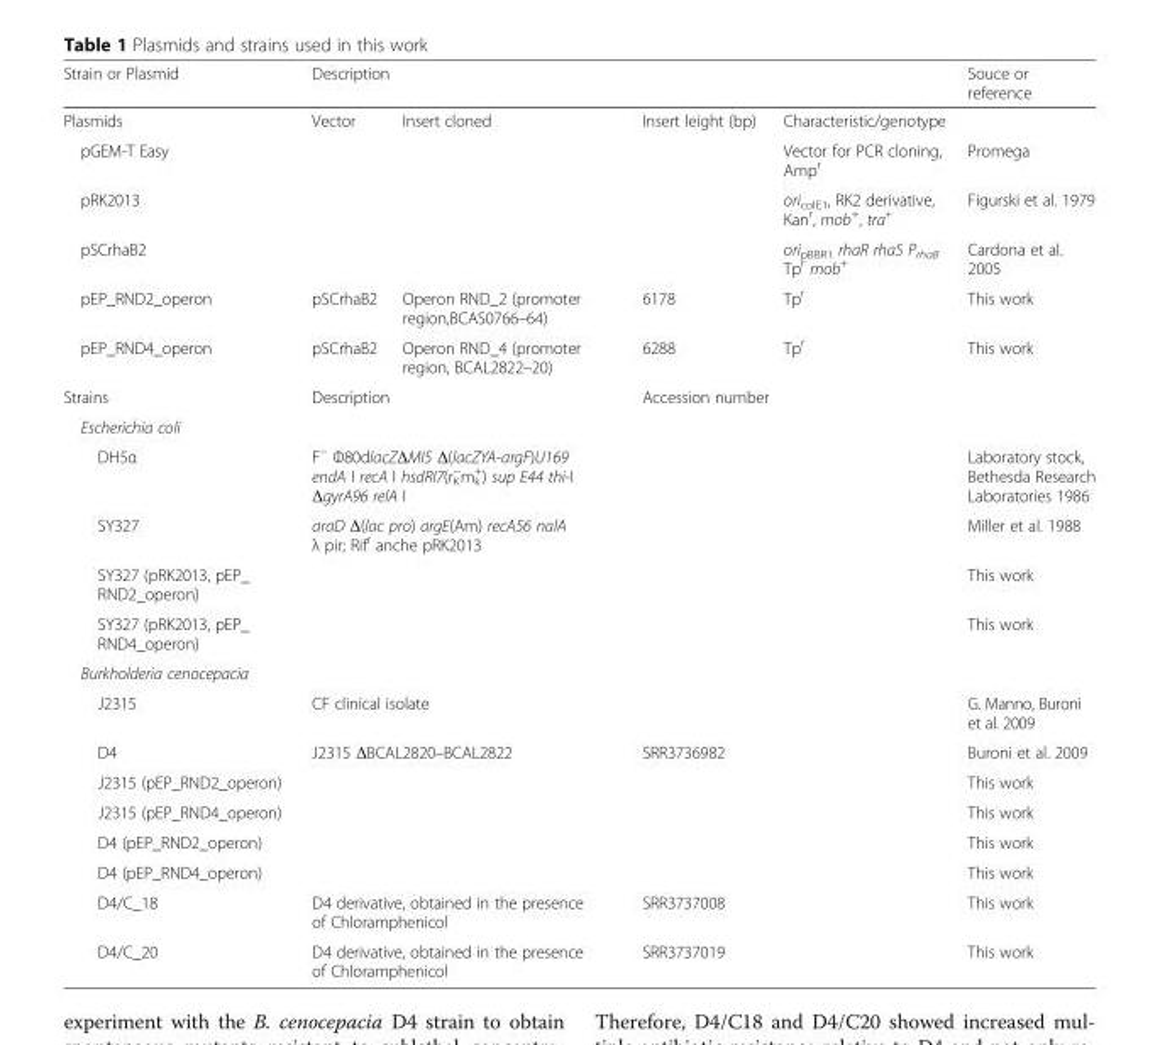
<table><thead><tr><td rowspan="2">Strain or Plasmid Plasmids</td><td colspan="4">Description</td><td rowspan="2">Souce or reference</td></tr><tr><td>Vector</td><td>Insert cloned</td><td>Insert leight (bp)</td><td>Characteristic/genotype</td></tr></thead><tbody><tr><td>pGEM-T Easy</td><td></td><td></td><td></td><td>Vector for PCR cloning, Amp<sup>r</sup></td><td>Promega</td></tr><tr><td>pRK2013</td><td></td><td></td><td></td><td>ori<sub>colE1</sub>, RK2 derivative, Kan<sup>r</sup>, mob<sup>+</sup>, tra<sup>+</sup></td><td>Figurski et al. 1979</td></tr><tr><td>pSCrhaB2</td><td></td><td></td><td></td><td>ori<sub>pBBR1</sub> rhaR rhaS P<sub>rhaB</sub> Tp<sup>r</sup> mob<sup>+</sup></td><td>Cardona et al. 2005</td></tr><tr><td>pEP_RND2_operon</td><td>pSCrhaB2</td><td>Operon RND_2 (promoter region,BCAS0766–64)</td><td>6178</td><td>Tp<sup>r</sup></td><td>This work</td></tr><tr><td>pEP_RND4_operon</td><td>pSCrhaB2</td><td>Operon RND_4 (promoter region, BCAL2822–20)</td><td>6288</td><td>Tp<sup>r</sup></td><td>This work</td></tr><tr><td>Strains</td><td>Description</td><td></td><td>Accession number</td><td></td><td></td></tr><tr><td colspan="6">Escherichia coli</td></tr><tr><td>DH5α</td><td colspan="2">F<sup>−</sup> Φ80dlacZΔMI5 Δ(lacZYA-argF)U169 endA I recA I hsdRI7(r<sub>K</sub> <sup>−</sup>m<sub>k</sub> <sup>+</sup>) sup E44 thi-I ΔgyrA96 relA I</td><td></td><td></td><td>Laboratory stock, Bethesda Research Laboratories 1986</td></tr><tr><td>SY327</td><td colspan="2">araD Δ(lac pro) argE(Am) recA56 nalA λ pir; Rif<sup>r</sup> anche pRK2013</td><td></td><td></td><td>Miller et al. 1988</td></tr><tr><td>SY327 (pRK2013, pEP_ RND2_operon)</td><td></td><td></td><td></td><td></td><td>This work</td></tr><tr><td>SY327 (pRK2013, pEP_ RND4_operon)</td><td></td><td></td><td></td><td></td><td>This work</td></tr><tr><td colspan="6">Burkholderia cenocepacia</td></tr><tr><td>J2315</td><td colspan="2">CF clinical isolate</td><td></td><td></td><td>G. Manno, Buroni et al. 2009</td></tr><tr><td>D4</td><td colspan="2">J2315 ΔBCAL2820–BCAL2822</td><td>SRR3736982</td><td></td><td>Buroni et al. 2009</td></tr><tr><td>J2315 (pEP_RND2_operon)</td><td></td><td></td><td></td><td></td><td>This work</td></tr><tr><td>J2315 (pEP_RND4_operon)</td><td></td><td></td><td></td><td></td><td>This work</td></tr><tr><td>D4 (pEP_RND2_operon)</td><td></td><td></td><td></td><td></td><td>This work</td></tr><tr><td>D4 (pEP_RND4_operon)</td><td></td><td></td><td></td><td></td><td>This work</td></tr><tr><td>D4/C_18</td><td colspan="2">D4 derivative, obtained in the presence of Chloramphenicol</td><td>SRR3737008</td><td></td><td>This work</td></tr><tr><td>D4/C_20</td><td colspan="2">D4 derivative, obtained in the presence of Chloramphenicol</td><td>SRR3737019</td><td></td><td>This work</td></tr></tbody></table>